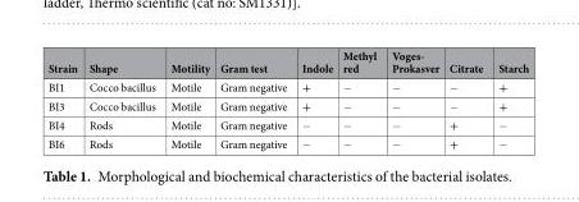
<table><thead><tr><td>Strain</td><td>Shape</td><td>Motility</td><td>Gram test</td><td>Indole</td><td>Methyl red</td><td>Voges- Prokasver</td><td>Citrate</td><td>Starch</td></tr></thead><tbody><tr><td>BI1</td><td>Cocco bacillus</td><td>Motile</td><td>Gram negative</td><td>+</td><td>−</td><td>−</td><td>−</td><td>+</td></tr><tr><td>BI3</td><td>Cocco bacillus</td><td>Motile</td><td>Gram negative</td><td>+</td><td>−</td><td>−</td><td>−</td><td>+</td></tr><tr><td>BI4</td><td>Rods</td><td>Motile</td><td>Gram negative</td><td>−</td><td>−</td><td>−</td><td>+</td><td>−</td></tr><tr><td>BI6</td><td>Rods</td><td>Motile</td><td>Gram negative</td><td>−</td><td>−</td><td>−</td><td>+</td><td>−</td></tr></tbody></table>